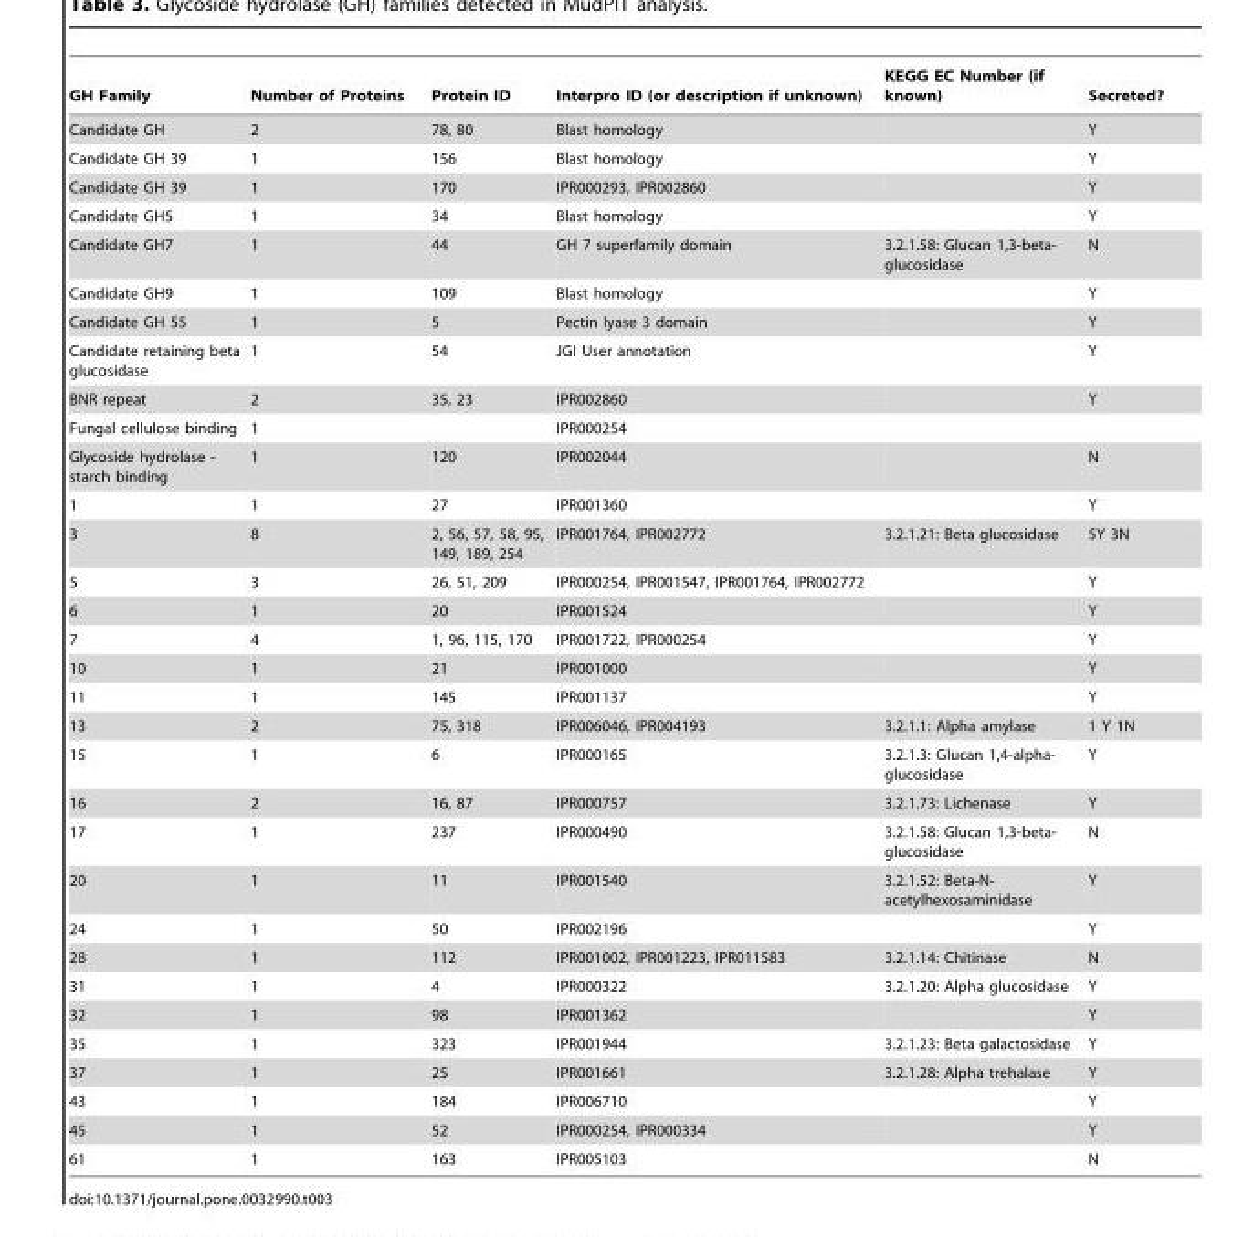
<table><thead><tr><td>GH Family</td><td>Number of Proteins</td><td>Protein ID</td><td>Interpro ID (or description if unknown)</td><td>KEGG EC Number (if known)</td><td>Secreted?</td></tr></thead><tbody><tr><td>Candidate GH</td><td>2</td><td>78, 80</td><td>Blast homology</td><td></td><td>Y</td></tr><tr><td>Candidate GH 39</td><td>1</td><td>156</td><td>Blast homology</td><td></td><td>Y</td></tr><tr><td>Candidate GH 39</td><td>1</td><td>170</td><td>IPR000293, IPR002860</td><td></td><td>Y</td></tr><tr><td>Candidate GH5</td><td>1</td><td>34</td><td>Blast homology</td><td></td><td>Y</td></tr><tr><td>Candidate GH7</td><td>1</td><td>44</td><td>GH 7 superfamily domain</td><td>3.2.1.58: Glucan 1,3-beta- glucosidase</td><td>N</td></tr><tr><td>Candidate GH9</td><td>1</td><td>109</td><td>Blast homology</td><td></td><td>Y</td></tr><tr><td>Candidate GH 55</td><td>1</td><td>5</td><td>Pectin lyase 3 domain</td><td></td><td>Y</td></tr><tr><td>Candidate retaining beta glucosidase</td><td>1</td><td>54</td><td>JGI User annotation</td><td></td><td>Y</td></tr><tr><td>BNR repeat</td><td>2</td><td>35, 23</td><td>IPR002860</td><td></td><td>Y</td></tr><tr><td>Fungal cellulose binding</td><td>1</td><td></td><td>IPR000254</td><td></td><td></td></tr><tr><td>Glycoside hydrolase - starch binding</td><td>1</td><td>120</td><td>IPR002044</td><td></td><td>N</td></tr><tr><td>1</td><td>1</td><td>27</td><td>IPR001360</td><td></td><td>Y</td></tr><tr><td>3</td><td>8</td><td>2, 56, 57, 58, 95, 149, 189, 254</td><td>IPR001764, IPR002772</td><td>3.2.1.21: Beta glucosidase</td><td>5Y 3N</td></tr><tr><td>5</td><td>3</td><td>26, 51, 209</td><td>IPR000254, IPR001547, IPR001764, IPR002772</td><td></td><td>Y</td></tr><tr><td>6</td><td>1</td><td>20</td><td>IPR001524</td><td></td><td>Y</td></tr><tr><td>7</td><td>4</td><td>1, 96, 115, 170</td><td>IPR001722, IPR000254</td><td></td><td>Y</td></tr><tr><td>10</td><td>1</td><td>21</td><td>IPR001000</td><td></td><td>Y</td></tr><tr><td>11</td><td>1</td><td>145</td><td>IPR001137</td><td></td><td>Y</td></tr><tr><td>13</td><td>2</td><td>75, 318</td><td>IPR006046, IPR004193</td><td>3.2.1.1: Alpha amylase</td><td>1 Y 1N</td></tr><tr><td>15</td><td>1</td><td>6</td><td>IPR000165</td><td>3.2.1.3: Glucan 1,4-alpha- glucosidase</td><td>Y</td></tr><tr><td>16</td><td>2</td><td>16, 87</td><td>IPR000757</td><td>3.2.1.73: Lichenase</td><td>Y</td></tr><tr><td>17</td><td>1</td><td>237</td><td>IPR000490</td><td>3.2.1.58: Glucan 1,3-beta- glucosidase</td><td>N</td></tr><tr><td>20</td><td>1</td><td>11</td><td>IPR001540</td><td>3.2.1.52: Beta-N- acetylhexosaminidase</td><td>Y</td></tr><tr><td>24</td><td>1</td><td>50</td><td>IPR002196</td><td></td><td>Y</td></tr><tr><td>28</td><td>1</td><td>112</td><td>IPR001002, IPR001223, IPR011583</td><td>3.2.1.14: Chitinase</td><td>N</td></tr><tr><td>31</td><td>1</td><td>4</td><td>IPR000322</td><td>3.2.1.20: Alpha glucosidase</td><td>Y</td></tr><tr><td>32</td><td>1</td><td>98</td><td>IPR001362</td><td></td><td>Y</td></tr><tr><td>35</td><td>1</td><td>323</td><td>IPR001944</td><td>3.2.1.23: Beta galactosidase</td><td>Y</td></tr><tr><td>37</td><td>1</td><td>25</td><td>IPR001661</td><td>3.2.1.28: Alpha trehalase</td><td>Y</td></tr><tr><td>43</td><td>1</td><td>184</td><td>IPR006710</td><td></td><td>Y</td></tr><tr><td>45</td><td>1</td><td>52</td><td>IPR000254, IPR000334</td><td></td><td>Y</td></tr><tr><td>61</td><td>1</td><td>163</td><td>IPR005103</td><td></td><td>N</td></tr></tbody></table>